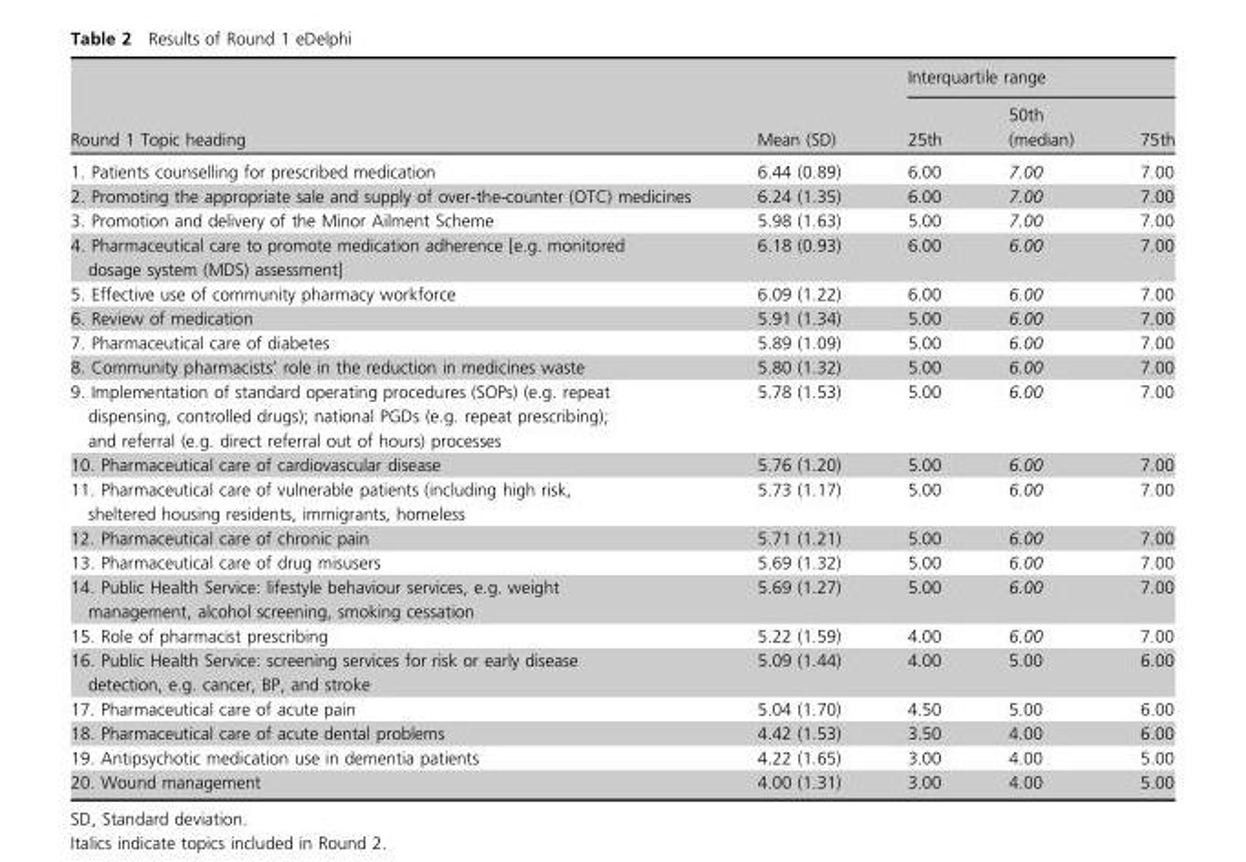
<table><thead><tr><td rowspan="2">Round 1 Topic heading</td><td rowspan="2">Mean (SD)</td><td colspan="3">Interquartile range</td></tr><tr><td>25th</td><td>50th (median)</td><td>75th</td></tr></thead><tbody><tr><td>1. Patients counselling for prescribed medication</td><td>6.44 (0.89)</td><td>6.00</td><td>7.00</td><td>7.00</td></tr><tr><td>2. Promoting the appropriate sale and supply of over-the-counter (OTC) medicines</td><td>6.24 (1.35)</td><td>6.00</td><td>7.00</td><td>7.00</td></tr><tr><td>3. Promotion and delivery of the Minor Ailment Scheme</td><td>5.98 (1.63)</td><td>5.00</td><td>7.00</td><td>7.00</td></tr><tr><td>4. Pharmaceutical care to promote medication adherence [e.g. monitored dosage system (MDS) assessment]</td><td>6.18 (0.93)</td><td>6.00</td><td>6.00</td><td>7.00</td></tr><tr><td>5. Effective use of community pharmacy workforce</td><td>6.09 (1.22)</td><td>6.00</td><td>6.00</td><td>7.00</td></tr><tr><td>6. Review of medication</td><td>5.91 (1.34)</td><td>5.00</td><td>6.00</td><td>7.00</td></tr><tr><td>7. Pharmaceutical care of diabetes</td><td>5.89 (1.09)</td><td>5.00</td><td>6.00</td><td>7.00</td></tr><tr><td>8. Community pharmacists’ role in the reduction in medicines waste</td><td>5.80 (1.32)</td><td>5.00</td><td>6.00</td><td>7.00</td></tr><tr><td>9. Implementation of standard operating procedures (SOPs) (e.g. repeat dispensing, controlled drugs); national PGDs (e.g. repeat prescribing); and referral (e.g. direct referral out of hours) processes</td><td>5.78 (1.53)</td><td>5.00</td><td>6.00</td><td>7.00</td></tr><tr><td>10. Pharmaceutical care of cardiovascular disease</td><td>5.76 (1.20)</td><td>5.00</td><td>6.00</td><td>7.00</td></tr><tr><td>11. Pharmaceutical care of vulnerable patients (including high risk, sheltered housing residents, immigrants, homeless</td><td>5.73 (1.17)</td><td>5.00</td><td>6.00</td><td>7.00</td></tr><tr><td>12. Pharmaceutical care of chronic pain</td><td>5.71 (1.21)</td><td>5.00</td><td>6.00</td><td>7.00</td></tr><tr><td>13. Pharmaceutical care of drug misusers</td><td>5.69 (1.32)</td><td>5.00</td><td>6.00</td><td>7.00</td></tr><tr><td>14. Public Health Service: lifestyle behaviour services, e.g. weight management, alcohol screening, smoking cessation</td><td>5.69 (1.27)</td><td>5.00</td><td>6.00</td><td>7.00</td></tr><tr><td>15. Role of pharmacist prescribing</td><td>5.22 (1.59)</td><td>4.00</td><td>6.00</td><td>7.00</td></tr><tr><td>16. Public Health Service: screening services for risk or early disease detection, e.g. cancer, BP, and stroke</td><td>5.09 (1.44)</td><td>4.00</td><td>5.00</td><td>6.00</td></tr><tr><td>17. Pharmaceutical care of acute pain</td><td>5.04 (1.70)</td><td>4.50</td><td>5.00</td><td>6.00</td></tr><tr><td>18. Pharmaceutical care of acute dental problems</td><td>4.42 (1.53)</td><td>3.50</td><td>4.00</td><td>6.00</td></tr><tr><td>19. Antipsychotic medication use in dementia patients</td><td>4.22 (1.65)</td><td>3.00</td><td>4.00</td><td>5.00</td></tr><tr><td>20. Wound management</td><td>4.00 (1.31)</td><td>3.00</td><td>4.00</td><td>5.00</td></tr></tbody></table>